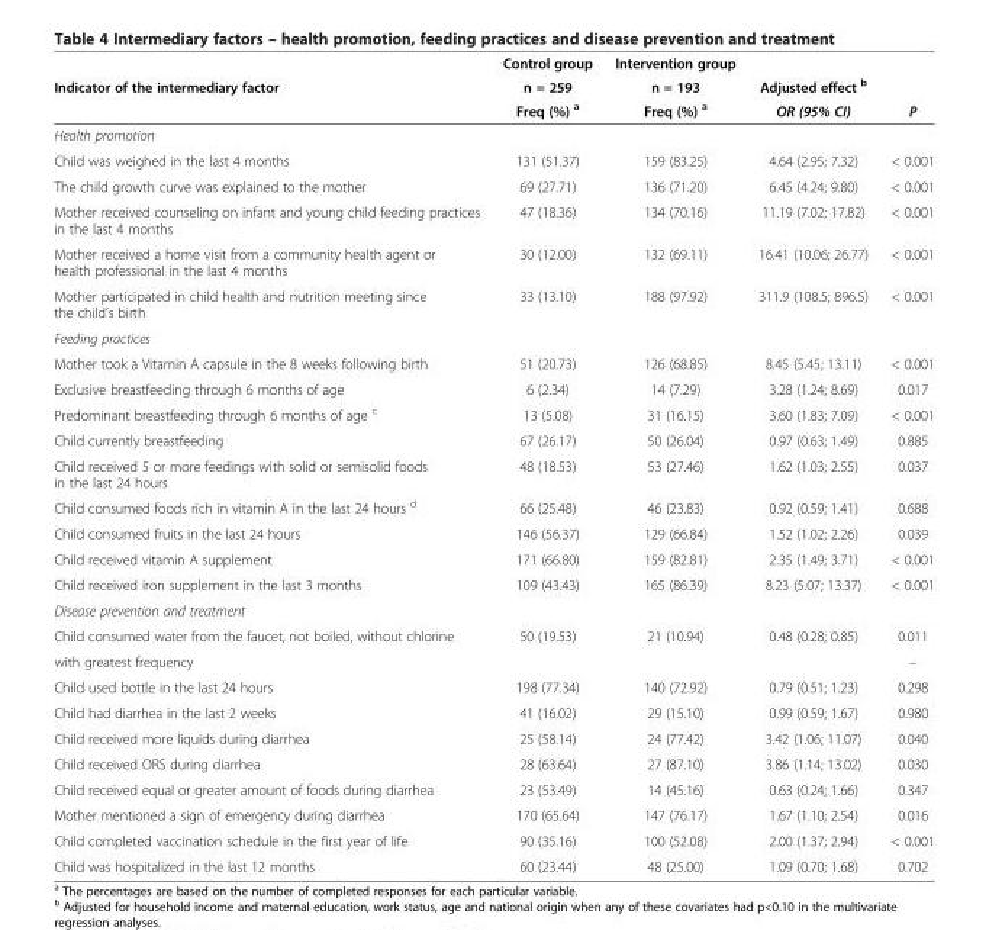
<table><thead><tr><td rowspan="3">Indicator of the intermediary factor</td><td rowspan="3">Control group n = 259 Freq (%) <sup>a</sup></td><td rowspan="3">Intervention group n = 193 Freq (%) <sup>a</sup></td><td rowspan="3">Adjusted effect <sup>b</sup> OR (95% CI)</td><td rowspan="3">P</td></tr><tr></tr><tr></tr></thead><tbody><tr><td colspan="5">Health promotion</td></tr><tr><td>Child was weighed in the last 4 months</td><td>131 (51.37)</td><td>159 (83.25)</td><td>4.64 (2.95; 7.32)</td><td>&lt; 0.001</td></tr><tr><td>The child growth curve was explained to the mother</td><td>69 (27.71)</td><td>136 (71.20)</td><td>6.45 (4.24; 9.80)</td><td>&lt; 0.001</td></tr><tr><td>Mother received counseling on infant and young child feeding practices in the last 4 months</td><td>47 (18.36)</td><td>134 (70.16)</td><td>11.19 (7.02; 17.82)</td><td>&lt; 0.001</td></tr><tr><td>Mother received a home visit from a community health agent or health professional in the last 4 months</td><td>30 (12.00)</td><td>132 (69.11)</td><td>16.41 (10.06; 26.77)</td><td>&lt; 0.001</td></tr><tr><td>Mother participated in child health and nutrition meeting since the child’s birth</td><td>33 (13.10)</td><td>188 (97.92)</td><td>311.9 (108.5; 896.5)</td><td>&lt; 0.001</td></tr><tr><td colspan="5">Feeding practices</td></tr><tr><td>Mother took a Vitamin A capsule in the 8 weeks following birth</td><td>51 (20.73)</td><td>126 (68.85)</td><td>8.45 (5.45; 13.11)</td><td>&lt; 0.001</td></tr><tr><td>Exclusive breastfeeding through 6 months of age</td><td>6 (2.34)</td><td>14 (7.29)</td><td>3.28 (1.24; 8.69)</td><td>0.017</td></tr><tr><td>Predominant breastfeeding through 6 months of age <sup>c</sup></td><td>13 (5.08)</td><td>31 (16.15)</td><td>3.60 (1.83; 7.09)</td><td>&lt; 0.001</td></tr><tr><td>Child currently breastfeeding</td><td>67 (26.17)</td><td>50 (26.04)</td><td>0.97 (0.63; 1.49)</td><td>0.885</td></tr><tr><td>Child received 5 or more feedings with solid or semisolid foods in the last 24 hours</td><td>48 (18.53)</td><td>53 (27.46)</td><td>1.62 (1.03; 2.55)</td><td>0.037</td></tr><tr><td>Child consumed foods rich in vitamin A in the last 24 hours <sup>d</sup></td><td>66 (25.48)</td><td>46 (23.83)</td><td>0.92 (0.59; 1.41)</td><td>0.688</td></tr><tr><td>Child consumed fruits in the last 24 hours</td><td>146 (56.37)</td><td>129 (66.84)</td><td>1.52 (1.02; 2.26)</td><td>0.039</td></tr><tr><td>Child received vitamin A supplement</td><td>171 (66.80)</td><td>159 (82.81)</td><td>2.35 (1.49; 3.71)</td><td>&lt; 0.001</td></tr><tr><td>Child received iron supplement in the last 3 months</td><td>109 (43.43)</td><td>165 (86.39)</td><td>8.23 (5.07; 13.37)</td><td>&lt; 0.001</td></tr><tr><td colspan="5">Disease prevention and treatment</td></tr><tr><td>Child consumed water from the faucet, not boiled, without chlorine</td><td>50 (19.53)</td><td>21 (10.94)</td><td>0.48 (0.28; 0.85)</td><td>0.011</td></tr><tr><td>with greatest frequency</td><td></td><td></td><td></td><td>–</td></tr><tr><td>Child used bottle in the last 24 hours</td><td>198 (77.34)</td><td>140 (72.92)</td><td>0.79 (0.51; 1.23)</td><td>0.298</td></tr><tr><td>Child had diarrhea in the last 2 weeks</td><td>41 (16.02)</td><td>29 (15.10)</td><td>0.99 (0.59; 1.67)</td><td>0.980</td></tr><tr><td>Child received more liquids during diarrhea</td><td>25 (58.14)</td><td>24 (77.42)</td><td>3.42 (1.06; 11.07)</td><td>0.040</td></tr><tr><td>Child received ORS during diarrhea</td><td>28 (63.64)</td><td>27 (87.10)</td><td>3.86 (1.14; 13.02)</td><td>0.030</td></tr><tr><td>Child received equal or greater amount of foods during diarrhea</td><td>23 (53.49)</td><td>14 (45.16)</td><td>0.63 (0.24; 1.66)</td><td>0.347</td></tr><tr><td>Mother mentioned a sign of emergency during diarrhea</td><td>170 (65.64)</td><td>147 (76.17)</td><td>1.67 (1.10; 2.54)</td><td>0.016</td></tr><tr><td>Child completed vaccination schedule in the first year of life</td><td>90 (35.16)</td><td>100 (52.08)</td><td>2.00 (1.37; 2.94)</td><td>&lt; 0.001</td></tr><tr><td>Child was hospitalized in the last 12 months</td><td>60 (23.44)</td><td>48 (25.00)</td><td>1.09 (0.70; 1.68)</td><td>0.702</td></tr></tbody></table>